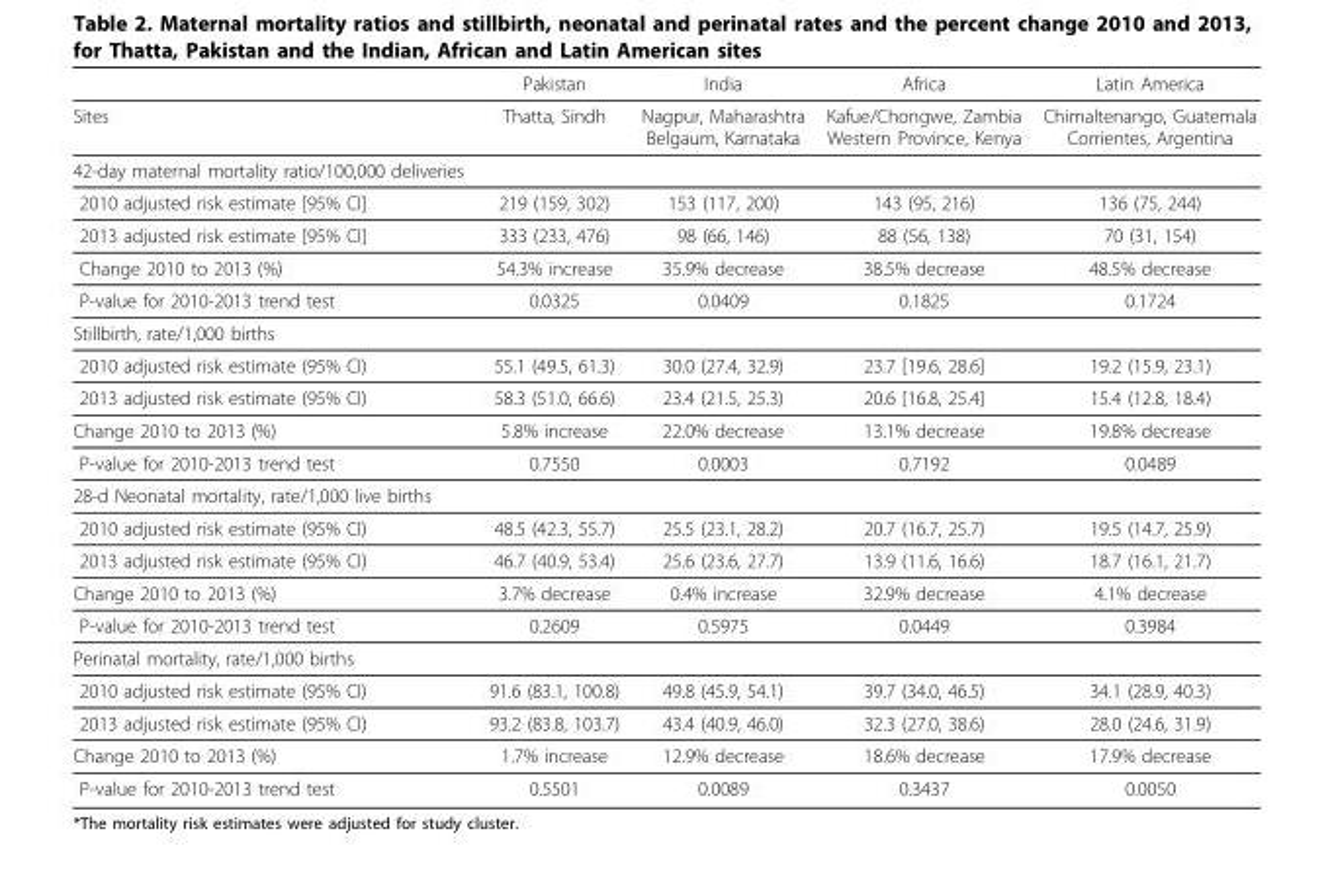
<table><thead><tr><td></td><td>Pakistan</td><td>India</td><td>Africa</td><td>Latin America</td></tr></thead><tbody><tr><td>Sites</td><td>Thatta, Sindh</td><td>Nagpur, Maharashtra Belgaum, Karnataka</td><td>Kafue/Chongwe, Zambia Western Province, Kenya</td><td>Chimaltenango, Guatemala Corrientes, Argentina</td></tr><tr><td colspan="5">42-day maternal mortality ratio/100,000 deliveries</td></tr><tr><td>2010 adjusted risk estimate [95% CI]</td><td>219 (159, 302)</td><td>153 (117, 200)</td><td>143 (95, 216)</td><td>136 (75, 244)</td></tr><tr><td>2013 adjusted risk estimate [95% CI]</td><td>333 (233, 476)</td><td>98 (66, 146)</td><td>88 (56, 138)</td><td>70 (31, 154)</td></tr><tr><td>Change 2010 to 2013 (%)</td><td>54.3% increase</td><td>35.9% decrease</td><td>38.5% decrease</td><td>48.5% decrease</td></tr><tr><td>P-value for 2010-2013 trend test</td><td>0.0325</td><td>0.0409</td><td>0.1825</td><td>0.1724</td></tr><tr><td colspan="5">Stillbirth, rate/1,000 births</td></tr><tr><td>2010 adjusted risk estimate (95% CI)</td><td>55.1 (49.5, 61.3)</td><td>30.0 (27.4, 32.9)</td><td>23.7 [19.6, 28.6]</td><td>19.2 (15.9, 23.1)</td></tr><tr><td>2013 adjusted risk estimate (95% CI)</td><td>58.3 (51.0, 66.6)</td><td>23.4 (21.5, 25.3)</td><td>20.6 [16.8, 25.4]</td><td>15.4 (12.8, 18.4)</td></tr><tr><td>Change 2010 to 2013 (%)</td><td>5.8% increase</td><td>22.0% decrease</td><td>13.1% decrease</td><td>19.8% decrease</td></tr><tr><td>P-value for 2010-2013 trend test</td><td>0.7550</td><td>0.0003</td><td>0.7192</td><td>0.0489</td></tr><tr><td colspan="5">28-d Neonatal mortality, rate/1,000 live births</td></tr><tr><td>2010 adjusted risk estimate (95% CI)</td><td>48.5 (42.3, 55.7)</td><td>25.5 (23.1, 28.2)</td><td>20.7 (16.7, 25.7)</td><td>19.5 (14.7, 25.9)</td></tr><tr><td>2013 adjusted risk estimate (95% CI)</td><td>46.7 (40.9, 53.4)</td><td>25.6 (23.6, 27.7)</td><td>13.9 (11.6, 16.6)</td><td>18.7 (16.1, 21.7)</td></tr><tr><td>Change 2010 to 2013 (%)</td><td>3.7% decrease</td><td>0.4% increase</td><td>32.9% decrease</td><td>4.1% decrease</td></tr><tr><td>P-value for 2010-2013 trend test</td><td>0.2609</td><td>0.5975</td><td>0.0449</td><td>0.3984</td></tr><tr><td colspan="5">Perinatal mortality, rate/1,000 births</td></tr><tr><td>2010 adjusted risk estimate (95% CI)</td><td>91.6 (83.1, 100.8)</td><td>49.8 (45.9, 54.1)</td><td>39.7 (34.0, 46.5)</td><td>34.1 (28.9, 40.3)</td></tr><tr><td>2013 adjusted risk estimate (95% CI)</td><td>93.2 (83.8, 103.7)</td><td>43.4 (40.9, 46.0)</td><td>32.3 (27.0, 38.6)</td><td>28.0 (24.6, 31.9)</td></tr><tr><td>Change 2010 to 2013 (%)</td><td>1.7% increase</td><td>12.9% decrease</td><td>18.6% decrease</td><td>17.9% decrease</td></tr><tr><td>P-value for 2010-2013 trend test</td><td>0.5501</td><td>0.0089</td><td>0.3437</td><td>0.0050</td></tr></tbody></table>